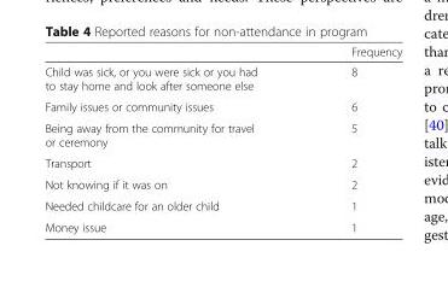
<table><thead><tr><td></td><td>Frequency</td></tr></thead><tbody><tr><td>Child was sick, or you were sick or you had to stay home and look after someone else</td><td>8</td></tr><tr><td>Family issues or community issues</td><td>6</td></tr><tr><td>Being away from the community for travel or ceremony</td><td>5</td></tr><tr><td>Transport</td><td>2</td></tr><tr><td>Not knowing if it was on</td><td>2</td></tr><tr><td>Needed childcare for an older child</td><td>1</td></tr><tr><td>Money issue</td><td>1</td></tr></tbody></table>